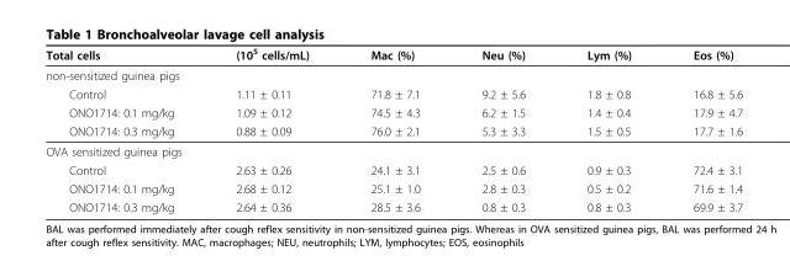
<table><thead><tr><td>Total cells</td><td>(10<sup>5</sup> cells/mL)</td><td>Mac (%)</td><td>Neu (%)</td><td>Lym (%)</td><td>Eos (%)</td></tr></thead><tbody><tr><td colspan="6">non-sensitized guinea pigs</td></tr><tr><td>Control</td><td>1.11 ± 0.11</td><td>71.8 ± 7.1</td><td>9.2 ± 5.6</td><td>1.8 ± 0.8</td><td>16.8 ± 5.6</td></tr><tr><td>ONO1714: 0.1 mg/kg</td><td>1.09 ± 0.12</td><td>74.5 ± 4.3</td><td>6.2 ± 1.5</td><td>1.4 ± 0.4</td><td>17.9 ± 4.7</td></tr><tr><td>ONO1714: 0.3 mg/kg</td><td>0.88 ± 0.09</td><td>76.0 ± 2.1</td><td>5.3 ± 3.3</td><td>1.5 ± 0.5</td><td>17.7 ± 1.6</td></tr><tr><td colspan="6">OVA sensitized guinea pigs</td></tr><tr><td>Control</td><td>2.63 ± 0.26</td><td>24.1 ± 3.1</td><td>2.5 ± 0.6</td><td>0.9 ± 0.3</td><td>72.4 ± 3.1</td></tr><tr><td>ONO1714: 0.1 mg/kg</td><td>2.68 ± 0.12</td><td>25.1 ± 1.0</td><td>2.8 ± 0.3</td><td>0.5 ± 0.2</td><td>71.6 ± 1.4</td></tr><tr><td>ONO1714: 0.3 mg/kg</td><td>2.64 ± 0.36</td><td>28.5 ± 3.6</td><td>0.8 ± 0.3</td><td>0.8 ± 0.3</td><td>69.9 ± 3.7</td></tr></tbody></table>